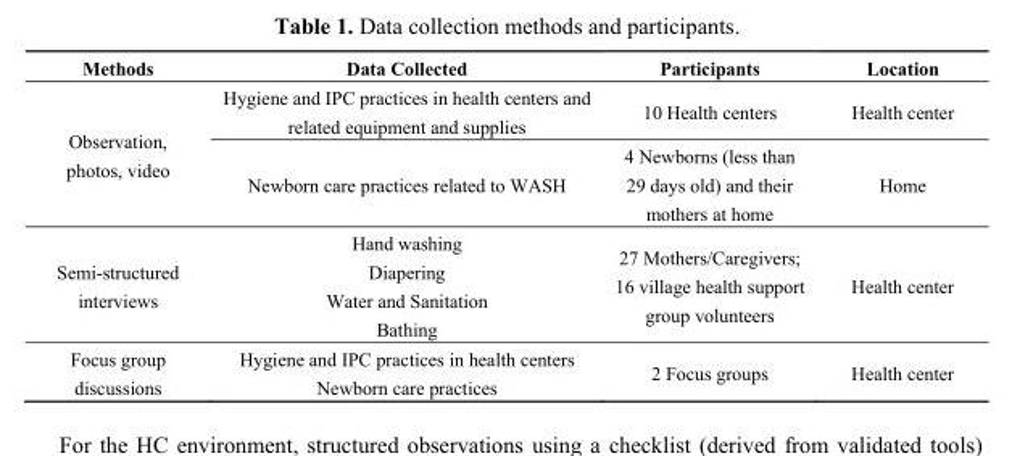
<table><thead><tr><td>Methods</td><td>Data Collected</td><td>Participants</td><td>Location</td></tr></thead><tbody><tr><td rowspan="2">Observation, photos, video</td><td>Hygiene and IPC practices in health centers and related equipment and supplies</td><td>10 Health centers</td><td>Health center</td></tr><tr><td>Newborn care practices related to WASH</td><td>4 Newborns (less than 29 days old) and their mothers at home</td><td>Home</td></tr><tr><td>Semi-structured interviews</td><td>Hand washing Diapering Water and Sanitation Bathing</td><td>27 Mothers/Caregivers; 16 village health support group volunteers</td><td>Health center</td></tr><tr><td>Focus group discussions</td><td>Hygiene and IPC practices in health centers Newborn care practices</td><td>2 Focus groups</td><td>Health center</td></tr></tbody></table>